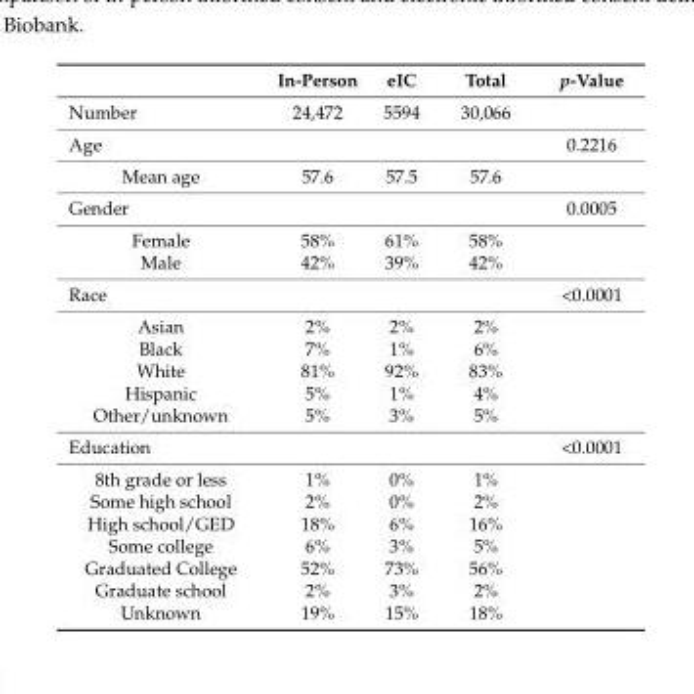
<table><thead><tr><td></td><td>In-Person</td><td>eIC</td><td>Total</td><td>p-Value</td></tr></thead><tbody><tr><td>Number</td><td>24,472</td><td>5594</td><td>30,066</td><td></td></tr><tr><td>Age</td><td></td><td></td><td></td><td>0.2216</td></tr><tr><td>Mean age</td><td>57.6</td><td>57.5</td><td>57.6</td><td></td></tr><tr><td>Gender</td><td></td><td></td><td></td><td>0.0005</td></tr><tr><td>Female</td><td>58%</td><td>61%</td><td>58%</td><td></td></tr><tr><td>Male</td><td>42%</td><td>39%</td><td>42%</td><td></td></tr><tr><td>Race</td><td></td><td></td><td></td><td>&lt;0.0001</td></tr><tr><td>Asian</td><td>2%</td><td>2%</td><td>2%</td><td></td></tr><tr><td>Black</td><td>7%</td><td>1%</td><td>6%</td><td></td></tr><tr><td>White</td><td>81%</td><td>92%</td><td>83%</td><td></td></tr><tr><td>Hispanic</td><td>5%</td><td>1%</td><td>4%</td><td></td></tr><tr><td>Other/unknown</td><td>5%</td><td>3%</td><td>5%</td><td></td></tr><tr><td>Education</td><td></td><td></td><td></td><td>&lt;0.0001</td></tr><tr><td>8th grade or less</td><td>1%</td><td>0%</td><td>1%</td><td></td></tr><tr><td>Some high school</td><td>2%</td><td>0%</td><td>2%</td><td></td></tr><tr><td>High school/GED</td><td>18%</td><td>6%</td><td>16%</td><td></td></tr><tr><td>Some college</td><td>6%</td><td>3%</td><td>5%</td><td></td></tr><tr><td>Graduated College</td><td>52%</td><td>73%</td><td>56%</td><td></td></tr><tr><td>Graduate school</td><td>2%</td><td>3%</td><td>2%</td><td></td></tr><tr><td>Unknown</td><td>19%</td><td>15%</td><td>18%</td><td></td></tr></tbody></table>